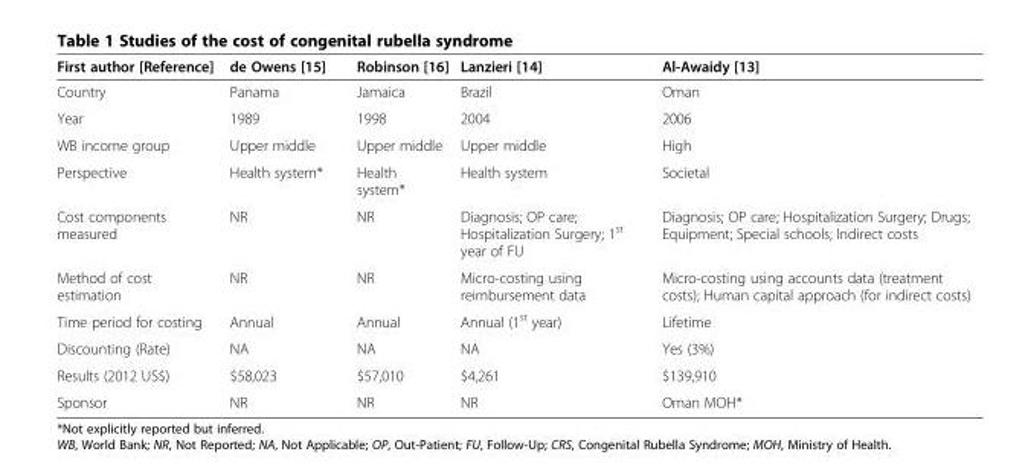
<table><thead><tr><td>First author [Reference]</td><td>de Owens [15]</td><td>Robinson [16]</td><td>Lanzieri [14]</td><td>Al-Awaidy [13]</td></tr></thead><tbody><tr><td>Country</td><td>Panama</td><td>Jamaica</td><td>Brazil</td><td>Oman</td></tr><tr><td>Year</td><td>1989</td><td>1998</td><td>2004</td><td>2006</td></tr><tr><td>WB income group</td><td>Upper middle</td><td>Upper middle</td><td>Upper middle</td><td>High</td></tr><tr><td>Perspective</td><td>Health system*</td><td>Health system*</td><td>Health system</td><td>Societal</td></tr><tr><td>Cost components measured</td><td>NR</td><td>NR</td><td>Diagnosis; OP care; Hospitalization Surgery; 1<sup>st</sup> year of FU</td><td>Diagnosis; OP care; Hospitalization Surgery; Drugs; Equipment; Special schools; Indirect costs</td></tr><tr><td>Method of cost estimation</td><td>NR</td><td>NR</td><td>Micro-costing using reimbursement data</td><td>Micro-costing using accounts data (treatment costs); Human capital approach (for indirect costs)</td></tr><tr><td>Time period for costing</td><td>Annual</td><td>Annual</td><td>Annual (1<sup>st</sup> year)</td><td>Lifetime</td></tr><tr><td>Discounting (Rate)</td><td>NA</td><td>NA</td><td>NA</td><td>Yes (3%)</td></tr><tr><td>Results (2012 US$)</td><td>$58,023</td><td>$57,010</td><td>$4,261</td><td>$139,910</td></tr><tr><td>Sponsor</td><td>NR</td><td>NR</td><td>NR</td><td>Oman MOH*</td></tr></tbody></table>